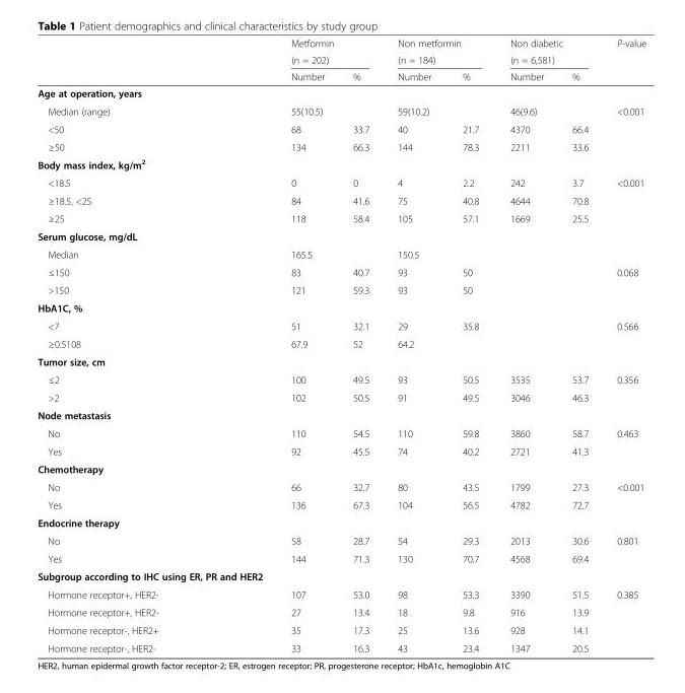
<table><thead><tr><td rowspan="3"></td><td rowspan="2" colspan="2">Metformin (n = 202)</td><td rowspan="2" colspan="2">Non metformin (n = 184)</td><td rowspan="2" colspan="2">Non diabetic (n = 6,581)</td><td rowspan="3">P-value</td></tr><tr></tr><tr><td>Number</td><td>%</td><td>Number</td><td>%</td><td>Number</td><td>%</td></tr></thead><tbody><tr><td colspan="8">Age at operation, years</td></tr><tr><td>Median (range)</td><td>55(10.5)</td><td></td><td>59(10.2)</td><td></td><td>46(9.6)</td><td></td><td>&lt;0.001</td></tr><tr><td>&lt;50</td><td>68</td><td>33.7</td><td>40</td><td>21.7</td><td>4370</td><td>66.4</td><td></td></tr><tr><td>≥50</td><td>134</td><td>66.3</td><td>144</td><td>78.3</td><td>2211</td><td>33.6</td><td></td></tr><tr><td colspan="8">Body mass index, kg/m<sup>2</sup></td></tr><tr><td>&lt;18.5</td><td>0</td><td>0</td><td>4</td><td>2.2</td><td>242</td><td>3.7</td><td>&lt;0.001</td></tr><tr><td>≥18.5, &lt;25</td><td>84</td><td>41.6</td><td>75</td><td>40.8</td><td>4644</td><td>70.8</td><td></td></tr><tr><td>≥25</td><td>118</td><td>58.4</td><td>105</td><td>57.1</td><td>1669</td><td>25.5</td><td></td></tr><tr><td colspan="8">Serum glucose, mg/dL</td></tr><tr><td>Median</td><td>165.5</td><td></td><td>150.5</td><td></td><td></td><td></td><td></td></tr><tr><td>≤150</td><td>83</td><td>40.7</td><td>93</td><td>50</td><td></td><td></td><td>0.068</td></tr><tr><td>&gt;150</td><td>121</td><td>59.3</td><td>93</td><td>50</td><td></td><td></td><td></td></tr><tr><td colspan="8">HbA1C, %</td></tr><tr><td>&lt;7</td><td>51</td><td>32.1</td><td>29</td><td>35.8</td><td></td><td></td><td>0.566</td></tr><tr><td>≥0.5108</td><td>67.9</td><td>52</td><td>64.2</td><td></td><td></td><td></td><td></td></tr><tr><td colspan="8">Tumor size, cm</td></tr><tr><td>≤2</td><td>100</td><td>49.5</td><td>93</td><td>50.5</td><td>3535</td><td>53.7</td><td>0.356</td></tr><tr><td>&gt;2</td><td>102</td><td>50.5</td><td>91</td><td>49.5</td><td>3046</td><td>46.3</td><td></td></tr><tr><td colspan="8">Node metastasis</td></tr><tr><td>No</td><td>110</td><td>54.5</td><td>110</td><td>59.8</td><td>3860</td><td>58.7</td><td>0.463</td></tr><tr><td>Yes</td><td>92</td><td>45.5</td><td>74</td><td>40.2</td><td>2721</td><td>41.3</td><td></td></tr><tr><td colspan="8">Chemotherapy</td></tr><tr><td>No</td><td>66</td><td>32.7</td><td>80</td><td>43.5</td><td>1799</td><td>27.3</td><td>&lt;0.001</td></tr><tr><td>Yes</td><td>136</td><td>67.3</td><td>104</td><td>56.5</td><td>4782</td><td>72.7</td><td></td></tr><tr><td colspan="8">Endocrine therapy</td></tr><tr><td>No</td><td>58</td><td>28.7</td><td>54</td><td>29.3</td><td>2013</td><td>30.6</td><td>0.801</td></tr><tr><td>Yes</td><td>144</td><td>71.3</td><td>130</td><td>70.7</td><td>4568</td><td>69.4</td><td></td></tr><tr><td colspan="8">Subgroup according to IHC using ER, PR and HER2</td></tr><tr><td>Hormone receptor+, HER2-</td><td>107</td><td>53.0</td><td>98</td><td>53.3</td><td>3390</td><td>51.5</td><td>0.385</td></tr><tr><td>Hormone receptor+, HER2-</td><td>27</td><td>13.4</td><td>18</td><td>9.8</td><td>916</td><td>13.9</td><td></td></tr><tr><td>Hormone receptor-, HER2+</td><td>35</td><td>17.3</td><td>25</td><td>13.6</td><td>928</td><td>14.1</td><td></td></tr><tr><td>Hormone receptor-, HER2-</td><td>33</td><td>16.3</td><td>43</td><td>23.4</td><td>1347</td><td>20.5</td><td></td></tr></tbody></table>